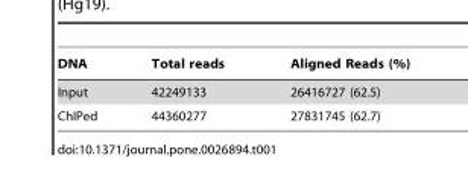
<table><thead><tr><td>DNA</td><td>Total reads</td><td>Aligned Reads (%)</td></tr></thead><tbody><tr><td>Input</td><td>42249133</td><td>26416727 (62.5)</td></tr><tr><td>ChIPed</td><td>44360277</td><td>27831745 (62.7)</td></tr></tbody></table>